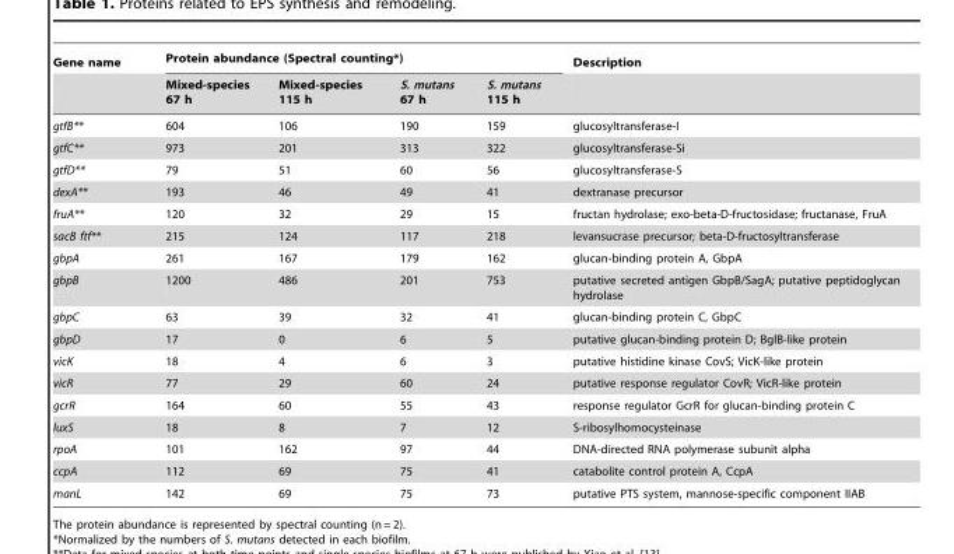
<table><thead><tr><td rowspan="2">Gene name</td><td colspan="4">Protein abundance (Spectral counting*)</td><td rowspan="2">Description</td></tr><tr><td>Mixed-species 67 h</td><td>Mixed-species 115 h</td><td>S. mutans 67 h</td><td>S. mutans 115 h</td></tr></thead><tbody><tr><td>gtfB**</td><td>604</td><td>106</td><td>190</td><td>159</td><td>glucosyltransferase-I</td></tr><tr><td>gtfC**</td><td>973</td><td>201</td><td>313</td><td>322</td><td>glucosyltransferase-Si</td></tr><tr><td>gtfD**</td><td>79</td><td>51</td><td>60</td><td>56</td><td>glucosyltransferase-S</td></tr><tr><td>dexA**</td><td>193</td><td>46</td><td>49</td><td>41</td><td>dextranase precursor</td></tr><tr><td>fruA**</td><td>120</td><td>32</td><td>29</td><td>15</td><td>fructan hydrolase; exo-beta-D-fructosidase; fructanase, FruA</td></tr><tr><td>sacB ftf**</td><td>215</td><td>124</td><td>117</td><td>218</td><td>levansucrase precursor; beta-D-fructosyltransferase</td></tr><tr><td>gbpA</td><td>261</td><td>167</td><td>179</td><td>162</td><td>glucan-binding protein A, GbpA</td></tr><tr><td>gbpB</td><td>1200</td><td>486</td><td>201</td><td>753</td><td>putative secreted antigen GbpB/SagA; putative peptidoglycan hydrolase</td></tr><tr><td>gbpC</td><td>63</td><td>39</td><td>32</td><td>41</td><td>glucan-binding protein C, GbpC</td></tr><tr><td>gbpD</td><td>17</td><td>0</td><td>6</td><td>5</td><td>putative glucan-binding protein D; BglB-like protein</td></tr><tr><td>vicK</td><td>18</td><td>4</td><td>6</td><td>3</td><td>putative histidine kinase CovS; VicK-like protein</td></tr><tr><td>vicR</td><td>77</td><td>29</td><td>60</td><td>24</td><td>putative response regulator CovR; VicR-like protein</td></tr><tr><td>gcrR</td><td>164</td><td>60</td><td>55</td><td>43</td><td>response regulator GcrR for glucan-binding protein C</td></tr><tr><td>luxS</td><td>18</td><td>8</td><td>7</td><td>12</td><td>S-ribosylhomocysteinase</td></tr><tr><td>rpoA</td><td>101</td><td>162</td><td>97</td><td>44</td><td>DNA-directed RNA polymerase subunit alpha</td></tr><tr><td>ccpA</td><td>112</td><td>69</td><td>75</td><td>41</td><td>catabolite control protein A, CcpA</td></tr><tr><td>manL</td><td>142</td><td>69</td><td>75</td><td>73</td><td>putative PTS system, mannose-specific component IIAB</td></tr></tbody></table>